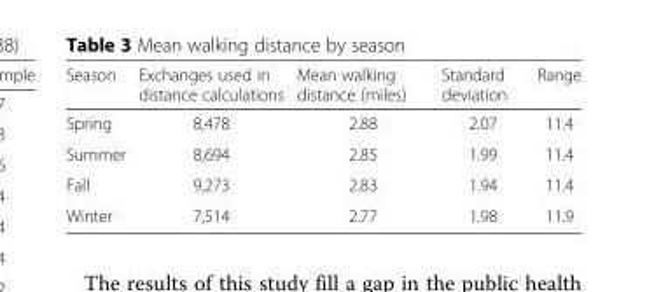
<table><thead><tr><td>Season</td><td>Exchanges used in distance calculations</td><td>Mean walking distance (miles)</td><td>Standard deviation</td><td>Range</td></tr></thead><tbody><tr><td>Spring</td><td>8,478</td><td>2.88</td><td>2.07</td><td>11.4</td></tr><tr><td>Summer</td><td>8,694</td><td>2.85</td><td>1.99</td><td>11.4</td></tr><tr><td>Fall</td><td>9,273</td><td>2.83</td><td>1.94</td><td>11.4</td></tr><tr><td>Winter</td><td>7,514</td><td>2.77</td><td>1.98</td><td>11.9</td></tr></tbody></table>